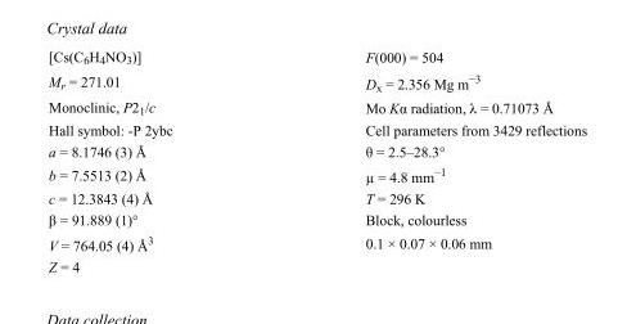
<table><tbody><tr><td>[Cs(C<sub>6</sub>H<sub>4</sub>NO<sub>3</sub>)]</td><td>F(000) = 504</td></tr><tr><td>M<sub>r</sub> = 271.01</td><td>D<sub>x</sub> = 2.356 Mg m<sup>−3</sup></td></tr><tr><td>Monoclinic, P2<sub>1</sub>/c</td><td>Mo Kα radiation, λ = 0.71073 Å</td></tr><tr><td>Hall symbol: -P 2ybc</td><td>Cell parameters from 3429 reflections</td></tr><tr><td>a = 8.1746 (3) Å</td><td>θ = 2.5–28.3°</td></tr><tr><td>b = 7.5513 (2) Å</td><td>µ = 4.8 mm<sup>−1</sup></td></tr><tr><td>c = 12.3843 (4) Å</td><td>T = 296 K</td></tr><tr><td>β = 91.889 (1)°</td><td>Block, colourless</td></tr><tr><td>V = 764.05 (4) Å<sup>3</sup></td><td>0.1 × 0.07 × 0.06 mm</td></tr><tr><td>Z = 4</td><td></td></tr></tbody></table>